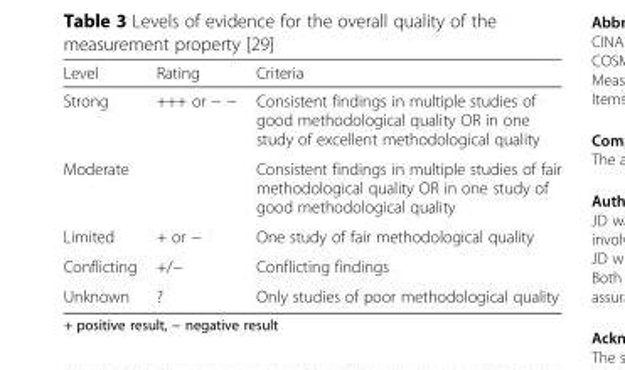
<table><thead><tr><td>Level</td><td>Rating</td><td>Criteria</td></tr></thead><tbody><tr><td>Strong</td><td>+++ or − −</td><td>Consistent findings in multiple studies of good methodological quality OR in one study of excellent methodological quality</td></tr><tr><td>Moderate</td><td></td><td>Consistent findings in multiple studies of fair methodological quality OR in one study of good methodological quality</td></tr><tr><td>Limited</td><td>+ or −</td><td>One study of fair methodological quality</td></tr><tr><td>Conflicting</td><td>+/−</td><td>Conflicting findings</td></tr><tr><td>Unknown</td><td>?</td><td>Only studies of poor methodological quality</td></tr></tbody></table>